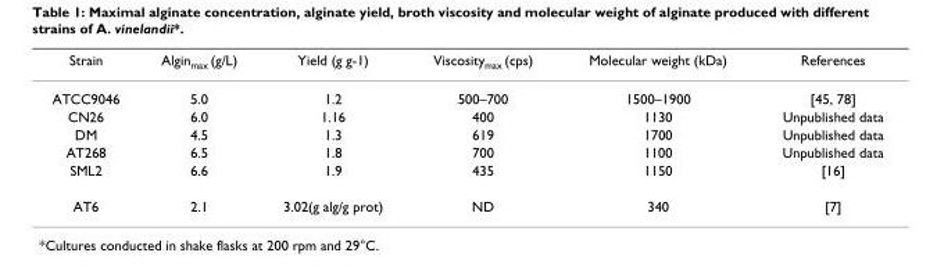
<table><thead><tr><td>Strain</td><td>Algin<sub>max</sub> (g/L)</td><td>Yield (g g-1)</td><td>Viscosity<sub>max</sub> (cps)</td><td>Molecular weight (kDa)</td><td>References</td></tr></thead><tbody><tr><td>ATCC9046</td><td>5.0</td><td>1.2</td><td>500–700</td><td>1500–1900</td><td>[45, 78]</td></tr><tr><td>CN26</td><td>6.0</td><td>1.16</td><td>400</td><td>1130</td><td>Unpublished data</td></tr><tr><td>DM</td><td>4.5</td><td>1.3</td><td>619</td><td>1700</td><td>Unpublished data</td></tr><tr><td>AT268</td><td>6.5</td><td>1.8</td><td>700</td><td>1100</td><td>Unpublished data</td></tr><tr><td>SML2</td><td>6.6</td><td>1.9</td><td>435</td><td>1150</td><td>[16]</td></tr><tr><td>AT6</td><td>2.1</td><td>3.02(g alg/g prot)</td><td>ND</td><td>340</td><td>[7]</td></tr></tbody></table>